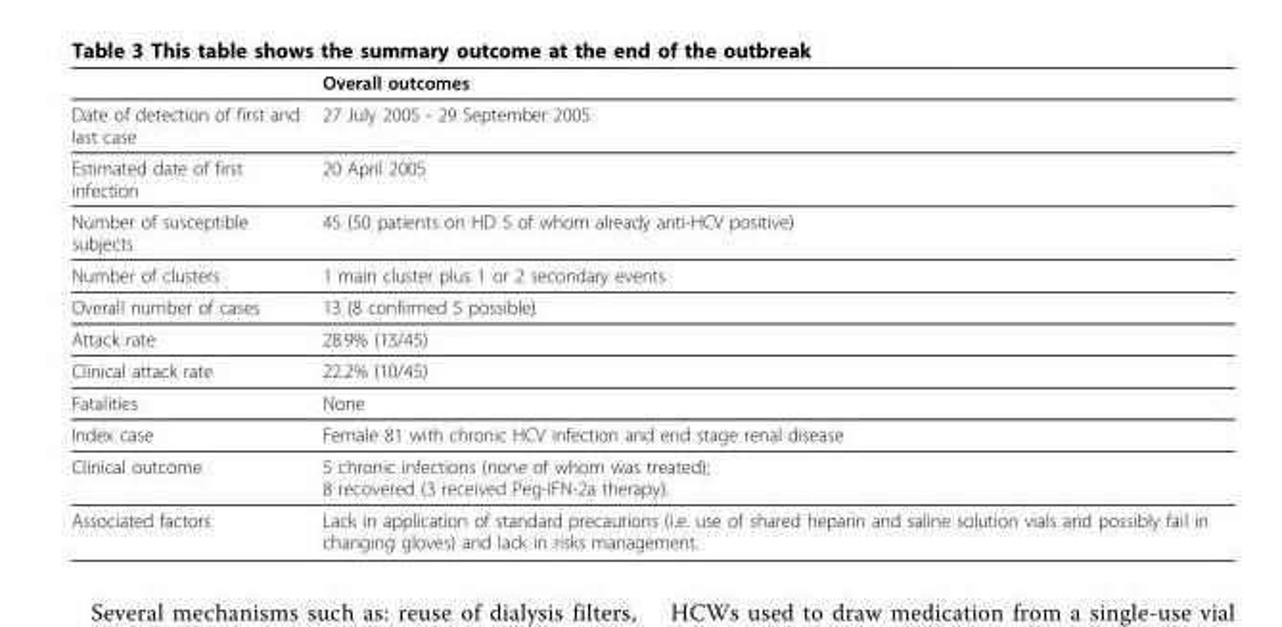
<table><thead><tr><td></td><td>Overall outcomes</td></tr></thead><tbody><tr><td>Date of detection of first and last case</td><td>27 July 2005 - 29 September 2005</td></tr><tr><td>Estimated date of first infection</td><td>20 April 2005</td></tr><tr><td>Number of susceptible subjects</td><td>45 (50 patients on HD 5 of whom already anti-HCV positive)</td></tr><tr><td>Number of clusters</td><td>1 main cluster plus 1 or 2 secondary events</td></tr><tr><td>Overall number of cases</td><td>13 (8 confirmed 5 possible)</td></tr><tr><td>Attack rate</td><td>28.9% (13/45)</td></tr><tr><td>Clinical attack rate</td><td>22.2% (10/45)</td></tr><tr><td>Fatalities</td><td>None</td></tr><tr><td>Index case</td><td>Female 81 with chronic HCV infection and end stage renal disease</td></tr><tr><td>Clinical outcome</td><td>5 chronic infections (none of whom was treated); 8 recovered (3 received Peg-IFN-2a therapy).</td></tr><tr><td>Associated factors</td><td>Lack in application of standard precautions (i.e. use of shared heparin and saline solution vials and possibly fail in changing gloves) and lack in risks management.</td></tr></tbody></table>